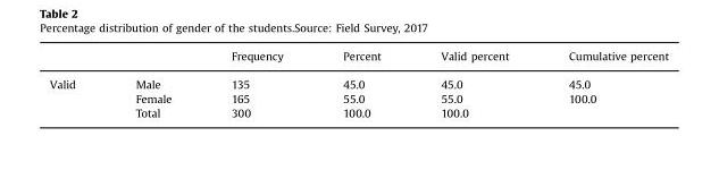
<table><thead><tr><td></td><td></td><td>Frequency</td><td>Percent</td><td>Valid percent</td><td>Cumulative percent</td></tr></thead><tbody><tr><td rowspan="3">Valid</td><td>Male</td><td>135</td><td>45.0</td><td>45.0</td><td>45.0</td></tr><tr><td>Female</td><td>165</td><td>55.0</td><td>55.0</td><td>100.0</td></tr><tr><td>Total</td><td>300</td><td>100.0</td><td>100.0</td><td></td></tr></tbody></table>